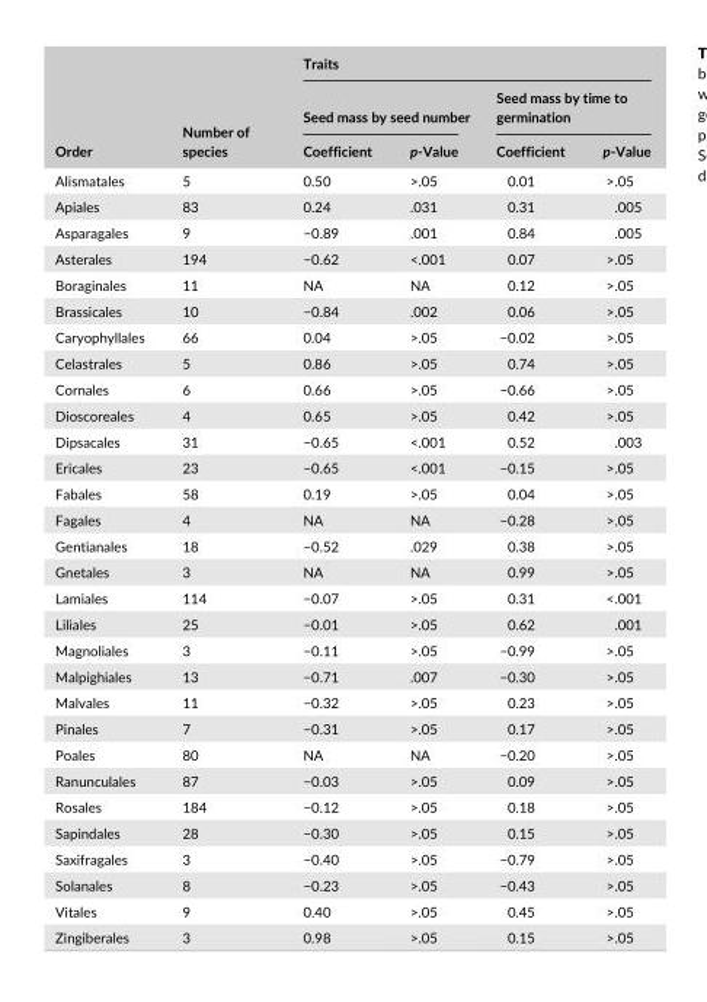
<table><thead><tr><td rowspan="3">Order</td><td rowspan="3">Number of species</td><td colspan="4">Traits</td></tr><tr><td colspan="2">Seed mass by seed number</td><td colspan="2">Seed mass by time to germination</td></tr><tr><td>Coefficient</td><td>p- Value</td><td>Coefficient</td><td>p- Value</td></tr></thead><tbody><tr><td>Alismatales</td><td>5</td><td>0.50</td><td>&gt;.05</td><td>0.01</td><td>&gt;.05</td></tr><tr><td>Apiales</td><td>83</td><td>0.24</td><td>.031</td><td>0.31</td><td>.005</td></tr><tr><td>Asparagales</td><td>9</td><td>−0.89</td><td>.001</td><td>0.84</td><td>.005</td></tr><tr><td>Asterales</td><td>194</td><td>−0.62</td><td>&lt;.001</td><td>0.07</td><td>&gt;.05</td></tr><tr><td>Boraginales</td><td>11</td><td>NA</td><td>NA</td><td>0.12</td><td>&gt;.05</td></tr><tr><td>Brassicales</td><td>10</td><td>−0.84</td><td>.002</td><td>0.06</td><td>&gt;.05</td></tr><tr><td>Caryophyllales</td><td>66</td><td>0.04</td><td>&gt;.05</td><td>−0.02</td><td>&gt;.05</td></tr><tr><td>Celastrales</td><td>5</td><td>0.86</td><td>&gt;.05</td><td>0.74</td><td>&gt;.05</td></tr><tr><td>Cornales</td><td>6</td><td>0.66</td><td>&gt;.05</td><td>−0.66</td><td>&gt;.05</td></tr><tr><td>Dioscoreales</td><td>4</td><td>0.65</td><td>&gt;.05</td><td>0.42</td><td>&gt;.05</td></tr><tr><td>Dipsacales</td><td>31</td><td>−0.65</td><td>&lt;.001</td><td>0.52</td><td>.003</td></tr><tr><td>Ericales</td><td>23</td><td>−0.65</td><td>&lt;.001</td><td>−0.15</td><td>&gt;.05</td></tr><tr><td>Fabales</td><td>58</td><td>0.19</td><td>&gt;.05</td><td>0.04</td><td>&gt;.05</td></tr><tr><td>Fagales</td><td>4</td><td>NA</td><td>NA</td><td>−0.28</td><td>&gt;.05</td></tr><tr><td>Gentianales</td><td>18</td><td>−0.52</td><td>.029</td><td>0.38</td><td>&gt;.05</td></tr><tr><td>Gnetales</td><td>3</td><td>NA</td><td>NA</td><td>0.99</td><td>&gt;.05</td></tr><tr><td>Lamiales</td><td>114</td><td>−0.07</td><td>&gt;.05</td><td>0.31</td><td>&lt;.001</td></tr><tr><td>Liliales</td><td>25</td><td>−0.01</td><td>&gt;.05</td><td>0.62</td><td>.001</td></tr><tr><td>Magnoliales</td><td>3</td><td>−0.11</td><td>&gt;.05</td><td>−0.99</td><td>&gt;.05</td></tr><tr><td>Malpighiales</td><td>13</td><td>−0.71</td><td>.007</td><td>−0.30</td><td>&gt;.05</td></tr><tr><td>Malvales</td><td>11</td><td>−0.32</td><td>&gt;.05</td><td>0.23</td><td>&gt;.05</td></tr><tr><td>Pinales</td><td>7</td><td>−0.31</td><td>&gt;.05</td><td>0.17</td><td>&gt;.05</td></tr><tr><td>Poales</td><td>80</td><td>NA</td><td>NA</td><td>−0.20</td><td>&gt;.05</td></tr><tr><td>Ranunculales</td><td>87</td><td>−0.03</td><td>&gt;.05</td><td>0.09</td><td>&gt;.05</td></tr><tr><td>Rosales</td><td>184</td><td>−0.12</td><td>&gt;.05</td><td>0.18</td><td>&gt;.05</td></tr><tr><td>Sapindales</td><td>28</td><td>−0.30</td><td>&gt;.05</td><td>0.15</td><td>&gt;.05</td></tr><tr><td>Saxifragales</td><td>3</td><td>−0.40</td><td>&gt;.05</td><td>−0.79</td><td>&gt;.05</td></tr><tr><td>Solanales</td><td>8</td><td>−0.23</td><td>&gt;.05</td><td>−0.43</td><td>&gt;.05</td></tr><tr><td>Vitales</td><td>9</td><td>0.40</td><td>&gt;.05</td><td>0.45</td><td>&gt;.05</td></tr><tr><td>Zingiberales</td><td>3</td><td>0.98</td><td>&gt;.05</td><td>0.15</td><td>&gt;.05</td></tr></tbody></table>